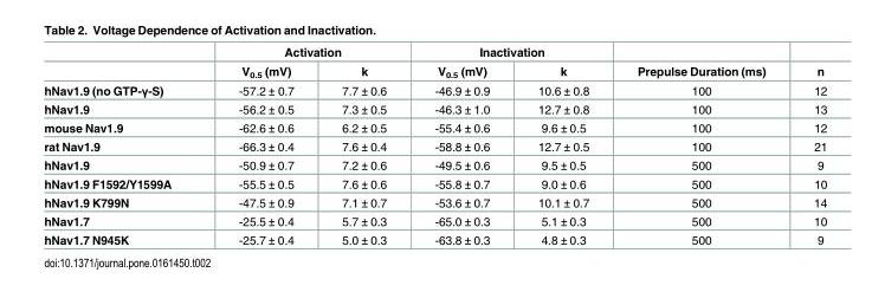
<table><thead><tr><td rowspan="2"></td><td colspan="2">Activation</td><td colspan="2">Inactivation</td><td rowspan="2">Prepulse Duration (ms)</td><td rowspan="2">n</td></tr><tr><td>V<sub>0.5</sub> (mV)</td><td>k</td><td>V<sub>0.5</sub> (mV)</td><td>k</td></tr></thead><tbody><tr><td>hNav1.9 (no GTP-γ-S)</td><td>-57.2 ± 0.7</td><td>7.7 ± 0.6</td><td>-46.9 ± 0.9</td><td>10.6 ± 0.8</td><td>100</td><td>12</td></tr><tr><td>hNav1.9</td><td>-56.2 ± 0.5</td><td>7.3 ± 0.5</td><td>-46.3 ± 1.0</td><td>12.7 ± 0.8</td><td>100</td><td>13</td></tr><tr><td>mouse Nav1.9</td><td>-62.6 ± 0.6</td><td>6.2 ± 0.5</td><td>-55.4 ± 0.6</td><td>9.6 ± 0.5</td><td>100</td><td>12</td></tr><tr><td>rat Nav1.9</td><td>-66.3 ± 0.4</td><td>7.6 ± 0.4</td><td>-58.8 ± 0.6</td><td>12.7 ± 0.5</td><td>100</td><td>21</td></tr><tr><td>hNav1.9</td><td>-50.9 ± 0.7</td><td>7.2 ± 0.6</td><td>-49.5 ± 0.6</td><td>9.5 ± 0.5</td><td>500</td><td>9</td></tr><tr><td>hNav1.9 F1592/Y1599A</td><td>-55.5 ± 0.5</td><td>7.6 ± 0.6</td><td>-55.8 ± 0.7</td><td>9.0 ± 0.6</td><td>500</td><td>10</td></tr><tr><td>hNav1.9 K799N</td><td>-47.5 ± 0.9</td><td>7.1 ± 0.7</td><td>-53.6 ± 0.7</td><td>10.1 ± 0.7</td><td>500</td><td>14</td></tr><tr><td>hNav1.7</td><td>-25.5 ± 0.4</td><td>5.7 ± 0.3</td><td>-65.0 ± 0.3</td><td>5.1 ± 0.3</td><td>500</td><td>10</td></tr><tr><td>hNav1.7 N945K</td><td>-25.7 ± 0.4</td><td>5.0 ± 0.3</td><td>-63.8 ± 0.3</td><td>4.8 ± 0.3</td><td>500</td><td>9</td></tr></tbody></table>